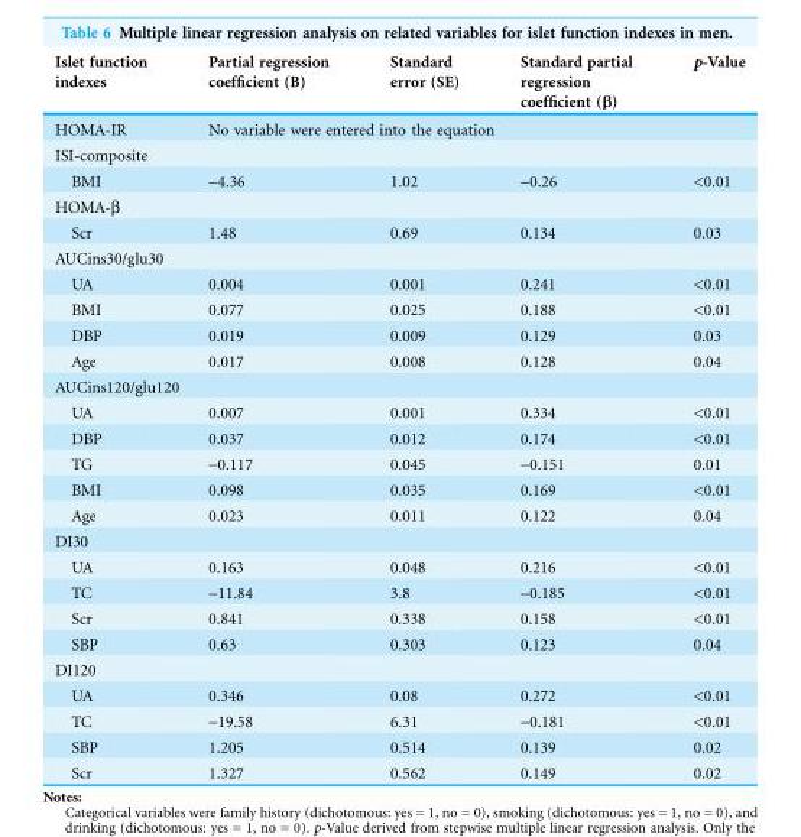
<table><thead><tr><td>Islet function indexes</td><td>Partial regression coefficient (B)</td><td>Standard error (SE)</td><td>Standard partial regression coefficient (β)</td><td>p-Value</td></tr></thead><tbody><tr><td>HOMA-IR</td><td colspan="4">No variable were entered into the equation</td></tr><tr><td colspan="5">ISI-composite</td></tr><tr><td>BMI</td><td>-4.36</td><td>1.02</td><td>-0.26</td><td>&lt;0.01</td></tr><tr><td colspan="5">HOMA-β</td></tr><tr><td>Scr</td><td>1.48</td><td>0.69</td><td>0.134</td><td>0.03</td></tr><tr><td colspan="5">AUCins30/glu30</td></tr><tr><td>UA</td><td>0.004</td><td>0.001</td><td>0.241</td><td>&lt;0.01</td></tr><tr><td>BMI</td><td>0.077</td><td>0.025</td><td>0.188</td><td>&lt;0.01</td></tr><tr><td>DBP</td><td>0.019</td><td>0.009</td><td>0.129</td><td>0.03</td></tr><tr><td>Age</td><td>0.017</td><td>0.008</td><td>0.128</td><td>0.04</td></tr><tr><td colspan="5">AUCins120/glu120</td></tr><tr><td>UA</td><td>0.007</td><td>0.001</td><td>0.334</td><td>&lt;0.01</td></tr><tr><td>DBP</td><td>0.037</td><td>0.012</td><td>0.174</td><td>&lt;0.01</td></tr><tr><td>TG</td><td>-0.117</td><td>0.045</td><td>-0.151</td><td>0.01</td></tr><tr><td>BMI</td><td>0.098</td><td>0.035</td><td>0.169</td><td>&lt;0.01</td></tr><tr><td>Age</td><td>0.023</td><td>0.011</td><td>0.122</td><td>0.04</td></tr><tr><td colspan="5">DI30</td></tr><tr><td>UA</td><td>0.163</td><td>0.048</td><td>0.216</td><td>&lt;0.01</td></tr><tr><td>TC</td><td>-11.84</td><td>3.8</td><td>-0.185</td><td>&lt;0.01</td></tr><tr><td>Scr</td><td>0.841</td><td>0.338</td><td>0.158</td><td>&lt;0.01</td></tr><tr><td>SBP</td><td>0.63</td><td>0.303</td><td>0.123</td><td>0.04</td></tr><tr><td colspan="5">DI120</td></tr><tr><td>UA</td><td>0.346</td><td>0.08</td><td>0.272</td><td>&lt;0.01</td></tr><tr><td>TC</td><td>-19.58</td><td>6.31</td><td>-0.181</td><td>&lt;0.01</td></tr><tr><td>SBP</td><td>1.205</td><td>0.514</td><td>0.139</td><td>0.02</td></tr><tr><td>Scr</td><td>1.327</td><td>0.562</td><td>0.149</td><td>0.02</td></tr></tbody></table>